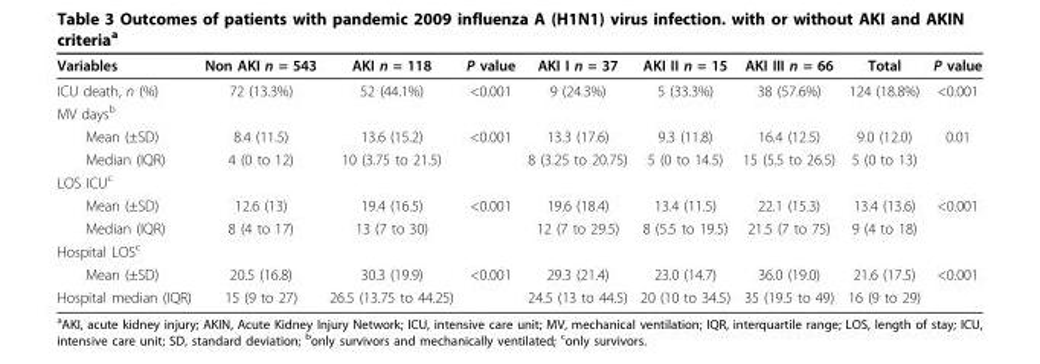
<table><thead><tr><td>Variables</td><td>Non AKI n = 543</td><td>AKI n = 118</td><td>P value</td><td>AKI I n = 37</td><td>AKI II n = 15</td><td>AKI III n = 66</td><td>Total</td><td>P value</td></tr></thead><tbody><tr><td>ICU death, n (%)</td><td>72 (13.3%)</td><td>52 (44.1%)</td><td>&lt;0.001</td><td>9 (24.3%)</td><td>5 (33.3%)</td><td>38 (57.6%)</td><td>124 (18.8%)</td><td>&lt;0.001</td></tr><tr><td colspan="9">MV days<sup>b</sup></td></tr><tr><td>Mean (±SD)</td><td>8.4 (11.5)</td><td>13.6 (15.2)</td><td>&lt;0.001</td><td>13.3 (17.6)</td><td>9.3 (11.8)</td><td>16.4 (12.5)</td><td>9.0 (12.0)</td><td>0.01</td></tr><tr><td>Median (IQR)</td><td>4 (0 to 12)</td><td>10 (3.75 to 21.5)</td><td></td><td>8 (3.25 to 20.75)</td><td>5 (0 to 14.5)</td><td>15 (5.5 to 26.5)</td><td>5 (0 to 13)</td><td></td></tr><tr><td colspan="9">LOS ICU<sup>c</sup></td></tr><tr><td>Mean (±SD)</td><td>12.6 (13)</td><td>19.4 (16.5)</td><td>&lt;0.001</td><td>19.6 (18.4)</td><td>13.4 (11.5)</td><td>22.1 (15.3)</td><td>13.4 (13.6)</td><td>&lt;0.001</td></tr><tr><td>Median (IQR)</td><td>8 (4 to 17)</td><td>13 (7 to 30)</td><td></td><td>12 (7 to 29.5)</td><td>8 (5.5 to 19.5)</td><td>21.5 (7 to 75)</td><td>9 (4 to 18)</td><td></td></tr><tr><td colspan="9">Hospital LOS<sup>c</sup></td></tr><tr><td>Mean (±SD)</td><td>20.5 (16.8)</td><td>30.3 (19.9)</td><td>&lt;0.001</td><td>29.3 (21.4)</td><td>23.0 (14.7)</td><td>36.0 (19.0)</td><td>21.6 (17.5)</td><td>&lt;0.001</td></tr><tr><td>Hospital median (IQR)</td><td>15 (9 to 27)</td><td>26.5 (13.75 to 44.25)</td><td></td><td>24.5 (13 to 44.5)</td><td>20 (10 to 34.5)</td><td>35 (19.5 to 49)</td><td>16 (9 to 29)</td><td></td></tr></tbody></table>